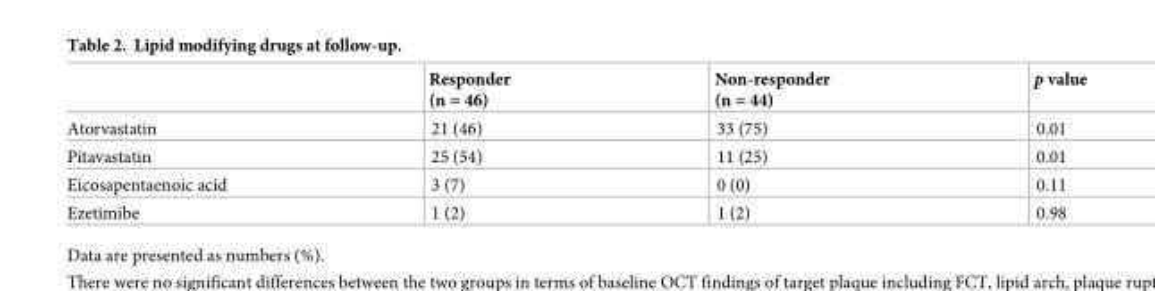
<table><thead><tr><td></td><td>Responder (n = 46)</td><td>Non-responder (n = 44)</td><td>p value</td></tr></thead><tbody><tr><td>Atorvastatin</td><td>21 (46)</td><td>33 (75)</td><td>0.01</td></tr><tr><td>Pitavastatin</td><td>25 (54)</td><td>11 (25)</td><td>0.01</td></tr><tr><td>Eicosapentaenoic acid</td><td>3 (7)</td><td>0 (0)</td><td>0.11</td></tr><tr><td>Ezetimibe</td><td>1 (2)</td><td>1 (2)</td><td>0.98</td></tr></tbody></table>